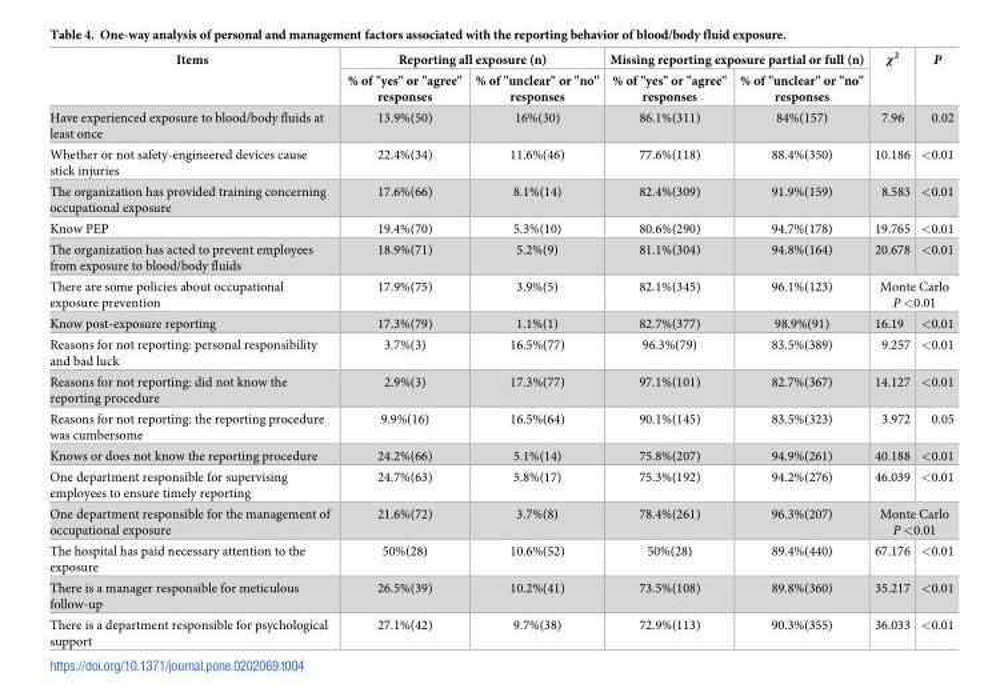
<table><thead><tr><td rowspan="2">Items</td><td colspan="2">Reporting all exposure (n)</td><td colspan="2">Missing reporting exposure partial or full (n)</td><td rowspan="2">χ<sup>2</sup></td><td rowspan="2">P</td></tr><tr><td>% of &quot;yes&quot; or &quot;agree&quot; responses</td><td>% of &quot;unclear&quot; or &quot;no&quot; responses</td><td>% of &quot;yes&quot; or &quot;agree&quot; responses</td><td>% of &quot;unclear&quot; or &quot;no&quot; responses</td></tr></thead><tbody><tr><td>Have experienced exposure to blood/body fluids at least once</td><td>13.9%(50)</td><td>16%(30)</td><td>86.1%(311)</td><td>84%(157)</td><td>7.96</td><td>0.02</td></tr><tr><td>Whether or not safety-engineered devices cause stick injuries</td><td>22.4%(34)</td><td>11.6%(46)</td><td>77.6%(118)</td><td>88.4%(350)</td><td>10.186</td><td>&lt;0.01</td></tr><tr><td>The organization has provided training concerning occupational exposure</td><td>17.6%(66)</td><td>8.1%(14)</td><td>82.4%(309)</td><td>91.9%(159)</td><td>8.583</td><td>&lt;0.01</td></tr><tr><td>Know PEP</td><td>19.4%(70)</td><td>5.3%(10)</td><td>80.6%(290)</td><td>94.7%(178)</td><td>19.765</td><td>&lt;0.01</td></tr><tr><td>The organization has acted to prevent employees from exposure to blood/body fluids</td><td>18.9%(71)</td><td>5.2%(9)</td><td>81.1%(304)</td><td>94.8%(164)</td><td>20.678</td><td>&lt;0.01</td></tr><tr><td>There are some policies about occupational exposure prevention</td><td>17.9%(75)</td><td>3.9%(5)</td><td>82.1%(345)</td><td>96.1%(123)</td><td colspan="2">Monte Carlo P &lt;0.01</td></tr><tr><td>Know post-exposure reporting</td><td>17.3%(79)</td><td>1.1%(1)</td><td>82.7%(377)</td><td>98.9%(91)</td><td>16.19</td><td>&lt;0.01</td></tr><tr><td>Reasons for not reporting: personal responsibility and bad luck</td><td>3.7%(3)</td><td>16.5%(77)</td><td>96.3%(79)</td><td>83.5%(389)</td><td>9.257</td><td>&lt;0.01</td></tr><tr><td>Reasons for not reporting: did not know the reporting procedure</td><td>2.9%(3)</td><td>17.3%(77)</td><td>97.1%(101)</td><td>82.7%(367)</td><td>14.127</td><td>&lt;0.01</td></tr><tr><td>Reasons for not reporting: the reporting procedure was cumbersome</td><td>9.9%(16)</td><td>16.5%(64)</td><td>90.1%(145)</td><td>83.5%(323)</td><td>3.972</td><td>0.05</td></tr><tr><td>Knows or does not know the reporting procedure</td><td>24.2%(66)</td><td>5.1%(14)</td><td>75.8%(207)</td><td>94.9%(261)</td><td>40.188</td><td>&lt;0.01</td></tr><tr><td>One department responsible for supervising employees to ensure timely reporting</td><td>24.7%(63)</td><td>5.8%(17)</td><td>75.3%(192)</td><td>94.2%(276)</td><td>46.039</td><td>&lt;0.01</td></tr><tr><td>One department responsible for the management of occupational exposure</td><td>21.6%(72)</td><td>3.7%(8)</td><td>78.4%(261)</td><td>96.3%(207)</td><td colspan="2">Monte Carlo P &lt;0.01</td></tr><tr><td>The hospital has paid necessary attention to the exposure</td><td>50%(28)</td><td>10.6%(52)</td><td>50%(28)</td><td>89.4%(440)</td><td>67.176</td><td>&lt;0.01</td></tr><tr><td>There is a manager responsible for meticulous follow-up</td><td>26.5%(39)</td><td>10.2%(41)</td><td>73.5%(108)</td><td>89.8%(360)</td><td>35.217</td><td>&lt;0.01</td></tr><tr><td>There is a department responsible for psychological support</td><td>27.1%(42)</td><td>9.7%(38)</td><td>72.9%(113)</td><td>90.3%(355)</td><td>36.033</td><td>&lt;0.01</td></tr></tbody></table>